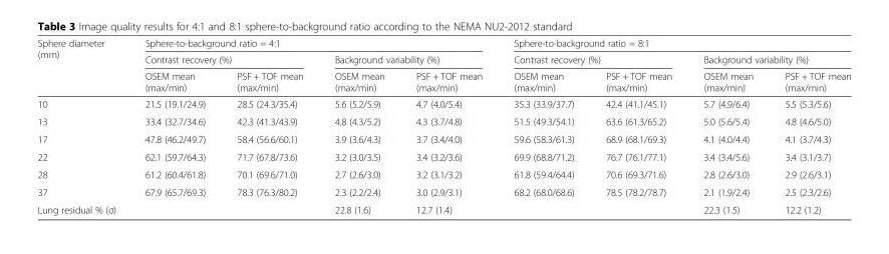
<table><thead><tr><td rowspan="3">Sphere diameter (mm)</td><td colspan="4">Sphere-to-background ratio = 4:1</td><td colspan="4">Sphere-to-background ratio = 8:1</td></tr><tr><td colspan="2">Contrast recovery (%)</td><td colspan="2">Background variability (%)</td><td colspan="2">Contrast recovery (%)</td><td colspan="2">Background variability (%)</td></tr><tr><td>OSEM mean (max/min)</td><td>PSF + TOF mean (max/min)</td><td>OSEM mean (max/min)</td><td>PSF + TOF mean (max/min)</td><td>OSEM mean (max/min)</td><td>PSF + TOF mean (max/min)</td><td>OSEM mean (max/min)</td><td>PSF + TOF mean (max/min)</td></tr></thead><tbody><tr><td>10</td><td>21.5 (19.1/24.9)</td><td>28.5 (24.3/35.4)</td><td>5.6 (5.2/5.9)</td><td>4.7 (4.0/5.4)</td><td>35.3 (33.9/37.7)</td><td>42.4 (41.1/45.1)</td><td>5.7 (4.9/6.4)</td><td>5.5 (5.3/5.6)</td></tr><tr><td>13</td><td>33.4 (32.7/34.6)</td><td>42.3 (41.3/43.9)</td><td>4.8 (4.3/5.2)</td><td>4.3 (3.7/4.8)</td><td>51.5 (49.3/54.1)</td><td>63.6 (61.3/65.2)</td><td>5.0 (5.6/5.4)</td><td>4.8 (4.6/5.0)</td></tr><tr><td>17</td><td>47.8 (46.2/49.7)</td><td>58.4 (56.6/60.1)</td><td>3.9 (3.6/4.3)</td><td>3.7 (3.4/4.0)</td><td>59.6 (58.3/61.3)</td><td>68.9 (68.1/69.3)</td><td>4.1 (4.0/4.4)</td><td>4.1 (3.7/4.3)</td></tr><tr><td>22</td><td>62.1 (59.7/64.3)</td><td>71.7 (67.8/73.6)</td><td>3.2 (3.0/3.5)</td><td>3.4 (3.2/3.6)</td><td>69.9 (68.8/71.2)</td><td>76.7 (76.1/77.1)</td><td>3.4 (3.4/5.6)</td><td>3.4 (3.1/3.7)</td></tr><tr><td>28</td><td>61.2 (60.4/61.8)</td><td>70.1 (69.6/71.0)</td><td>2.7 (2.6/3.0)</td><td>3.2 (3.1/3.2)</td><td>61.8 (59.4/64.4)</td><td>70.6 (69.3/71.6)</td><td>2.8 (2.6/3.0)</td><td>2.9 (2.6/3.1)</td></tr><tr><td>37</td><td>67.9 (65.7/69.3)</td><td>78.3 (76.3/80.2)</td><td>2.3 (2.2/2.4)</td><td>3.0 (2.9/3.1)</td><td>68.2 (68.0/68.6)</td><td>78.5 (78.2/78.7)</td><td>2.1 (1.9/2.4)</td><td>2.5 (2.3/2.6)</td></tr><tr><td colspan="3">Lung residual % (σ)</td><td>22.8 (1.6)</td><td>12.7 (1.4)</td><td></td><td></td><td>22.3 (1.5)</td><td>12.2 (1.2)</td></tr></tbody></table>